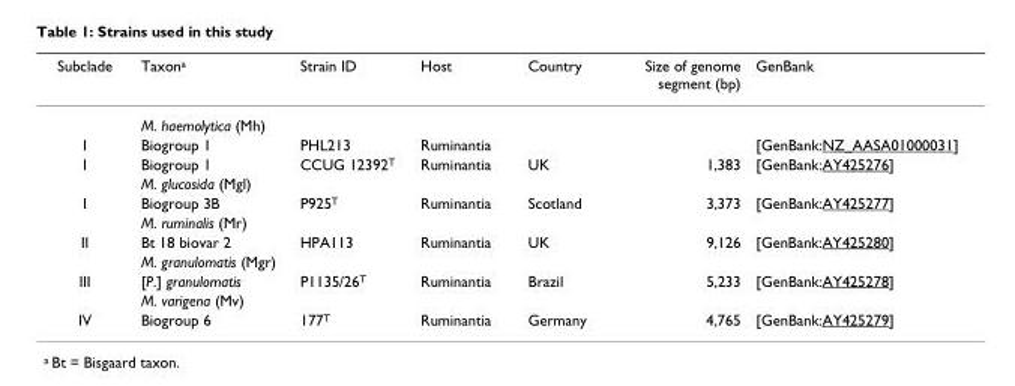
<table><thead><tr><td>Subclade</td><td>Taxon<sup>a</sup></td><td>Strain ID</td><td>Host</td><td>Country</td><td>Size of genome segment (bp)</td><td>GenBank</td></tr></thead><tbody><tr><td></td><td>M. haemolytica (Mh)</td><td></td><td></td><td></td><td></td><td></td></tr><tr><td>I</td><td>Biogroup 1</td><td>PHL213</td><td>Ruminantia</td><td></td><td></td><td>[GenBank:NZ_AASA01000031]</td></tr><tr><td rowspan="2">I</td><td>Biogroup 1</td><td>CCUG 12392<sup>T</sup></td><td>Ruminantia</td><td>UK</td><td>1,383</td><td>[GenBank:AY425276]</td></tr><tr><td>M. glucosida (Mgl)</td><td></td><td></td><td></td><td></td><td></td></tr><tr><td rowspan="2">I</td><td>Biogroup 3B</td><td>P925<sup>T</sup></td><td>Ruminantia</td><td>Scotland</td><td>3,373</td><td>[GenBank:AY425277]</td></tr><tr><td>M. ruminalis (Mr)</td><td></td><td></td><td></td><td></td><td></td></tr><tr><td rowspan="2">II</td><td>Bt 18 biovar 2</td><td>HPA113</td><td>Ruminantia</td><td>UK</td><td>9,126</td><td>[GenBank:AY425280]</td></tr><tr><td>M. granulomatis (Mgr)</td><td></td><td></td><td></td><td></td><td></td></tr><tr><td rowspan="2">III</td><td>[P.] granulomatis</td><td>P1135/26<sup>T</sup></td><td>Ruminantia</td><td>Brazil</td><td>5,233</td><td>[GenBank:AY425278]</td></tr><tr><td>M. varigena (Mv)</td><td></td><td></td><td></td><td></td><td></td></tr><tr><td>IV</td><td>Biogroup 6</td><td>177<sup>T</sup></td><td>Ruminantia</td><td>Germany</td><td>4,765</td><td>[GenBank:AY425279]</td></tr></tbody></table>